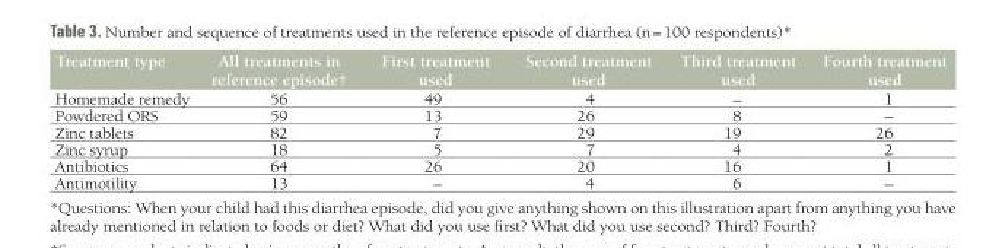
<table><thead><tr><td>Treatment type</td><td>All treatments in reference episode†</td><td>First treatment used</td><td>Second treatment used</td><td>Third treatment used</td><td>Fourth treatment used</td></tr></thead><tbody><tr><td>Homemade remedy</td><td>56</td><td>49</td><td>4</td><td>–</td><td>1</td></tr><tr><td>Powdered ORS</td><td>59</td><td>13</td><td>26</td><td>8</td><td>–</td></tr><tr><td>Zinc tablets</td><td>82</td><td>7</td><td>29</td><td>19</td><td>26</td></tr><tr><td>Zinc syrup</td><td>18</td><td>5</td><td>7</td><td>4</td><td>2</td></tr><tr><td>Antibiotics</td><td>64</td><td>26</td><td>20</td><td>16</td><td>1</td></tr><tr><td>Antimotility</td><td>13</td><td>–</td><td>4</td><td>6</td><td>–</td></tr></tbody></table>